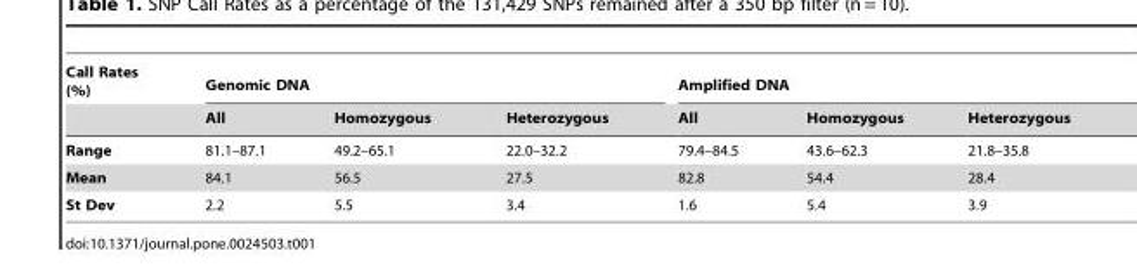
<table><thead><tr><td rowspan="2">Call Rates (%)</td><td colspan="3">Genomic DNA</td><td colspan="3">Amplified DNA</td></tr><tr><td>All</td><td>Homozygous</td><td>Heterozygous</td><td>All</td><td>Homozygous</td><td>Heterozygous</td></tr></thead><tbody><tr><td>Range</td><td>81.1–87.1</td><td>49.2–65.1</td><td>22.0–32.2</td><td>79.4–84.5</td><td>43.6–62.3</td><td>21.8–35.8</td></tr><tr><td>Mean</td><td>84.1</td><td>56.5</td><td>27.5</td><td>82.8</td><td>54.4</td><td>28.4</td></tr><tr><td>St Dev</td><td>2.2</td><td>5.5</td><td>3.4</td><td>1.6</td><td>5.4</td><td>3.9</td></tr></tbody></table>